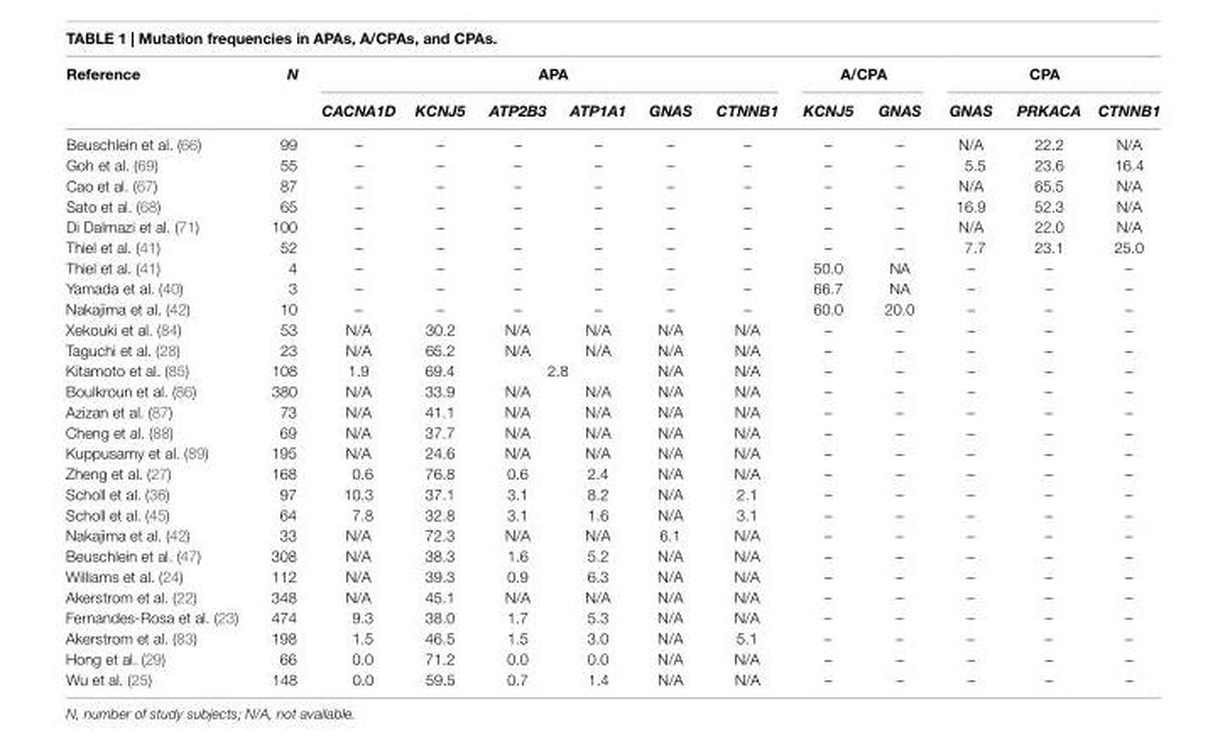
<table><thead><tr><td rowspan="2">Reference</td><td rowspan="2">N</td><td colspan="6">APA</td><td colspan="2">A/CPA</td><td colspan="3">CPA</td></tr><tr><td>CACNA1D</td><td>KCNJ5</td><td>ATP2B3</td><td>ATP1A1</td><td>GNAS</td><td>CTNNB1</td><td>KCNJ5</td><td>GNAS</td><td>GNAS</td><td>PRKACA</td><td>CTNNB1</td></tr></thead><tbody><tr><td>Beuschlein et al. (66)</td><td>99</td><td>–</td><td>–</td><td>–</td><td>–</td><td>–</td><td>–</td><td>–</td><td>–</td><td>N/A</td><td>22.2</td><td>N/A</td></tr><tr><td>Goh et al. (69)</td><td>55</td><td>–</td><td>–</td><td>–</td><td>–</td><td>–</td><td>–</td><td>–</td><td>–</td><td>5.5</td><td>23.6</td><td>16.4</td></tr><tr><td>Cao et al. (67)</td><td>87</td><td>–</td><td>–</td><td>–</td><td>–</td><td>–</td><td>–</td><td>–</td><td>–</td><td>N/A</td><td>65.5</td><td>N/A</td></tr><tr><td>Sato et al. (68)</td><td>65</td><td>–</td><td>–</td><td>–</td><td>–</td><td>–</td><td>–</td><td>–</td><td>–</td><td>16.9</td><td>52.3</td><td>N/A</td></tr><tr><td>Di Dalmazi et al. (71)</td><td>100</td><td>–</td><td>–</td><td>–</td><td>–</td><td>–</td><td>–</td><td>–</td><td>–</td><td>N/A</td><td>22.0</td><td>N/A</td></tr><tr><td>Thiel et al. (41)</td><td>52</td><td>–</td><td>–</td><td>–</td><td>–</td><td>–</td><td>–</td><td>–</td><td>–</td><td>7.7</td><td>23.1</td><td>25.0</td></tr><tr><td>Thiel et al. (41)</td><td>4</td><td>–</td><td>–</td><td>–</td><td>–</td><td>–</td><td>–</td><td>50.0</td><td>NA</td><td>–</td><td>–</td><td>–</td></tr><tr><td>Yamada et al. (40)</td><td>3</td><td>–</td><td>–</td><td>–</td><td>–</td><td>–</td><td>–</td><td>66.7</td><td>NA</td><td>–</td><td>–</td><td>–</td></tr><tr><td>Nakajima et al. (42)</td><td>10</td><td>–</td><td>–</td><td>–</td><td>–</td><td>–</td><td>–</td><td>60.0</td><td>20.0</td><td>–</td><td>–</td><td>–</td></tr><tr><td>Xekouki et al. (84)</td><td>53</td><td>N/A</td><td>30.2</td><td>N/A</td><td>N/A</td><td>N/A</td><td>N/A</td><td>–</td><td>–</td><td>–</td><td>–</td><td>–</td></tr><tr><td>Taguchi et al. (28)</td><td>23</td><td>N/A</td><td>65.2</td><td>N/A</td><td>N/A</td><td>N/A</td><td>N/A</td><td>–</td><td>–</td><td>–</td><td>–</td><td>–</td></tr><tr><td>Kitamoto et al. (85)</td><td>108</td><td>1.9</td><td>69.4</td><td colspan="2">2.8</td><td>N/A</td><td>N/A</td><td>–</td><td>–</td><td>–</td><td>–</td><td>–</td></tr><tr><td>Boulkroun et al. (86)</td><td>380</td><td>N/A</td><td>33.9</td><td>N/A</td><td>N/A</td><td>N/A</td><td>N/A</td><td>–</td><td>–</td><td>–</td><td>–</td><td>–</td></tr><tr><td>Azizan et al. (87)</td><td>73</td><td>N/A</td><td>41.1</td><td>N/A</td><td>N/A</td><td>N/A</td><td>N/A</td><td>–</td><td>–</td><td>–</td><td>–</td><td>–</td></tr><tr><td>Cheng et al. (88)</td><td>69</td><td>N/A</td><td>37.7</td><td>N/A</td><td>N/A</td><td>N/A</td><td>N/A</td><td>–</td><td>–</td><td>–</td><td>–</td><td>–</td></tr><tr><td>Kuppusamy et al. (89)</td><td>195</td><td>N/A</td><td>24.6</td><td>N/A</td><td>N/A</td><td>N/A</td><td>N/A</td><td>–</td><td>–</td><td>–</td><td>–</td><td>–</td></tr><tr><td>Zheng et al. (27)</td><td>168</td><td>0.6</td><td>76.8</td><td>0.6</td><td>2.4</td><td>N/A</td><td>N/A</td><td>–</td><td>–</td><td>–</td><td>–</td><td>–</td></tr><tr><td>Scholl et al. (36)</td><td>97</td><td>10.3</td><td>37.1</td><td>3.1</td><td>8.2</td><td>N/A</td><td>2.1</td><td>–</td><td>–</td><td>–</td><td>–</td><td>–</td></tr><tr><td>Scholl et al. (45)</td><td>64</td><td>7.8</td><td>32.8</td><td>3.1</td><td>1.6</td><td>N/A</td><td>3.1</td><td>–</td><td>–</td><td>–</td><td>–</td><td>–</td></tr><tr><td>Nakajima et al. (42)</td><td>33</td><td>N/A</td><td>72.3</td><td>N/A</td><td>N/A</td><td>6.1</td><td>N/A</td><td>–</td><td>–</td><td>–</td><td>–</td><td>–</td></tr><tr><td>Beuschlein et al. (47)</td><td>308</td><td>N/A</td><td>38.3</td><td>1.6</td><td>5.2</td><td>N/A</td><td>N/A</td><td>–</td><td>–</td><td>–</td><td>–</td><td>–</td></tr><tr><td>Williams et al. (24)</td><td>112</td><td>N/A</td><td>39.3</td><td>0.9</td><td>6.3</td><td>N/A</td><td>N/A</td><td>–</td><td>–</td><td>–</td><td>–</td><td>–</td></tr><tr><td>Akerstrom et al. (22)</td><td>348</td><td>N/A</td><td>45.1</td><td>N/A</td><td>N/A</td><td>N/A</td><td>N/A</td><td>–</td><td>–</td><td>–</td><td>–</td><td>–</td></tr><tr><td>Fernandes-Rosa et al. (23)</td><td>474</td><td>9.3</td><td>38.0</td><td>1.7</td><td>5.3</td><td>N/A</td><td>N/A</td><td>–</td><td>–</td><td>–</td><td>–</td><td>–</td></tr><tr><td>Akerstrom et al. (83)</td><td>198</td><td>1.5</td><td>46.5</td><td>1.5</td><td>3.0</td><td>N/A</td><td>5.1</td><td>–</td><td>–</td><td>–</td><td>–</td><td>–</td></tr><tr><td>Hong et al. (29)</td><td>66</td><td>0.0</td><td>71.2</td><td>0.0</td><td>0.0</td><td>N/A</td><td>N/A</td><td>–</td><td>–</td><td>–</td><td>–</td><td>–</td></tr><tr><td>Wu et al. (25)</td><td>148</td><td>0.0</td><td>59.5</td><td>0.7</td><td>1.4</td><td>N/A</td><td>N/A</td><td>–</td><td>–</td><td>–</td><td>–</td><td>–</td></tr></tbody></table>